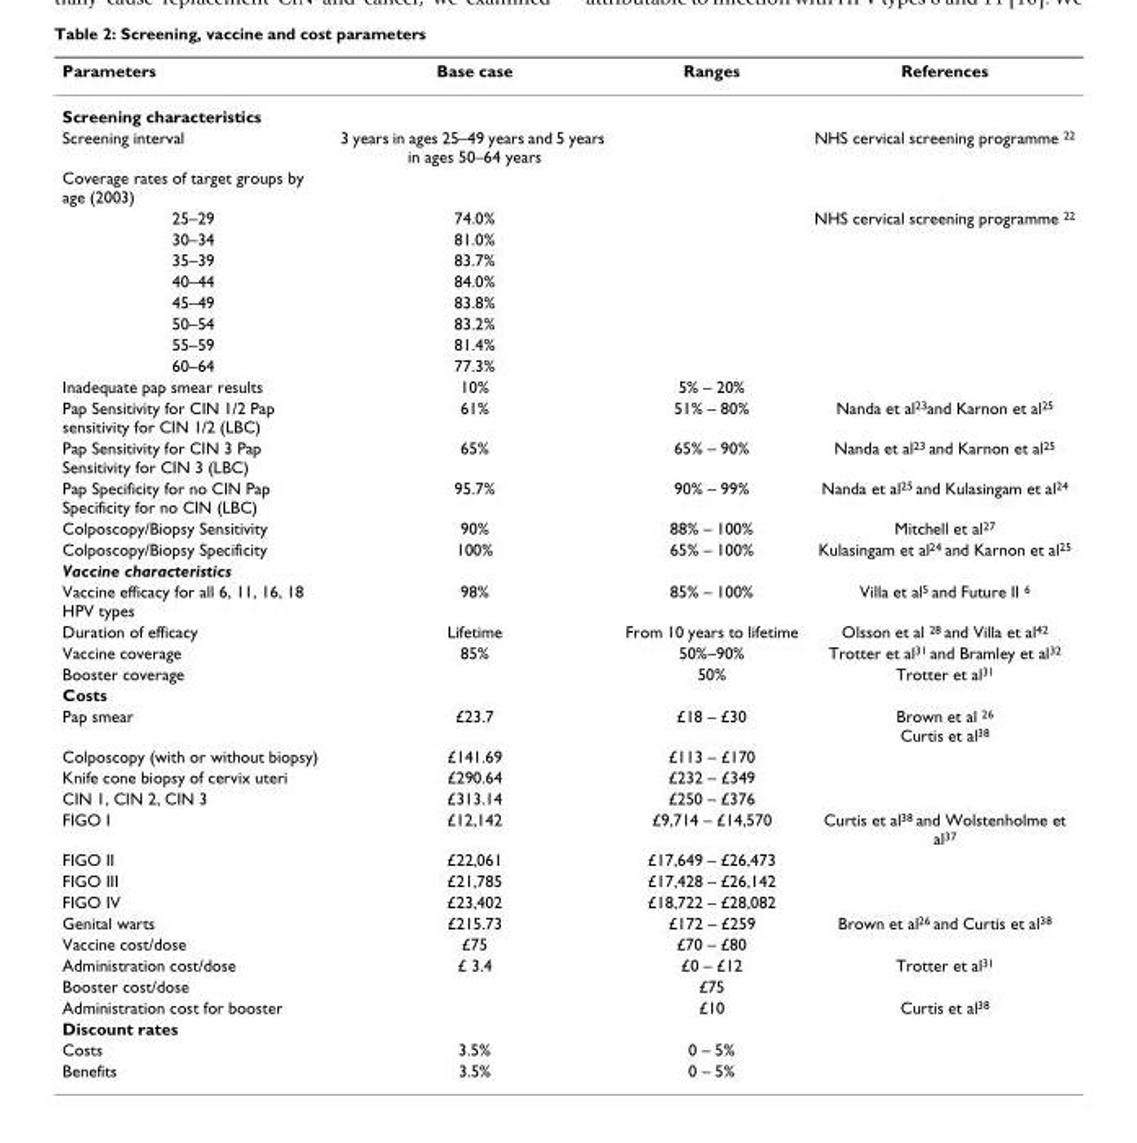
<table><thead><tr><td>Parameters</td><td>Base case</td><td>Ranges</td><td>References</td></tr></thead><tbody><tr><td colspan="4">Screening characteristics</td></tr><tr><td>Screening interval</td><td>3 years in ages 25–49 years and 5 years in ages 50–64 years</td><td></td><td>NHS cervical screening programme <sup>22</sup></td></tr><tr><td colspan="4">Coverage rates of target groups by age (2003)</td></tr><tr><td>25–29</td><td>74.0%</td><td></td><td>NHS cervical screening programme <sup>22</sup></td></tr><tr><td>30–34</td><td>81.0%</td><td></td><td></td></tr><tr><td>35–39</td><td>83.7%</td><td></td><td></td></tr><tr><td>40–44</td><td>84.0%</td><td></td><td></td></tr><tr><td>45–49</td><td>83.8%</td><td></td><td></td></tr><tr><td>50–54</td><td>83.2%</td><td></td><td></td></tr><tr><td>55–59</td><td>81.4%</td><td></td><td></td></tr><tr><td>60–64</td><td>77.3%</td><td></td><td></td></tr><tr><td>Inadequate pap smear results</td><td>10%</td><td>5% – 20%</td><td></td></tr><tr><td>Pap Sensitivity for CIN 1/2 Pap sensitivity for CIN 1/2 (LBC)</td><td>61%</td><td>51% – 80%</td><td>Nanda et al<sup>23</sup>and Karnon et al<sup>25</sup></td></tr><tr><td>Pap Sensitivity for CIN 3 Pap Sensitivity for CIN 3 (LBC)</td><td>65%</td><td>65% – 90%</td><td>Nanda et al<sup>23</sup> and Karnon et al<sup>25</sup></td></tr><tr><td>Pap Specificity for no CIN Pap Specificity for no CIN (LBC)</td><td>95.7%</td><td>90% – 99%</td><td>Nanda et al<sup>25</sup> and Kulasingam et al<sup>24</sup></td></tr><tr><td>Colposcopy/Biopsy Sensitivity</td><td>90%</td><td>88% – 100%</td><td>Mitchell et al<sup>27</sup></td></tr><tr><td>Colposcopy/Biopsy Specificity</td><td>100%</td><td>65% – 100%</td><td>Kulasingam et al<sup>24</sup> and Karnon et al<sup>25</sup></td></tr><tr><td colspan="4">Vaccine characteristics</td></tr><tr><td>Vaccine efficacy for all 6, 11, 16, 18 HPV types</td><td>98%</td><td>85% – 100%</td><td>Villa et al<sup>5</sup> and Future II <sup>6</sup></td></tr><tr><td>Duration of efficacy</td><td>Lifetime</td><td>From 10 years to lifetime</td><td>Olsson et al <sup>28</sup> and Villa et al<sup>42</sup></td></tr><tr><td>Vaccine coverage</td><td>85%</td><td>50%–90%</td><td>Trotter et al<sup>31</sup> and Bramley et al<sup>32</sup></td></tr><tr><td>Booster coverage</td><td></td><td>50%</td><td>Trotter et al<sup>31</sup></td></tr><tr><td colspan="4">Costs</td></tr><tr><td>Pap smear</td><td>£23.7</td><td>£18 – £30</td><td>Brown et al <sup>26</sup> Curtis et al<sup>38</sup></td></tr><tr><td>Colposcopy (with or without biopsy)</td><td>£141.69</td><td>£113 – £170</td><td></td></tr><tr><td>Knife cone biopsy of cervix uteri</td><td>£290.64</td><td>£232 – £349</td><td></td></tr><tr><td>CIN 1, CIN 2, CIN 3</td><td>£313.14</td><td>£250 – £376</td><td></td></tr><tr><td>FIGO I</td><td>£12,142</td><td>£9,714 – £14,570</td><td>Curtis et al<sup>38</sup> and Wolstenholme et al<sup>37</sup></td></tr><tr><td>FIGO II</td><td>£22,061</td><td>£17,649 – £26,473</td><td></td></tr><tr><td>FIGO III</td><td>£21,785</td><td>£17,428 – £26,142</td><td></td></tr><tr><td>FIGO IV</td><td>£23,402</td><td>£18,722 – £28,082</td><td></td></tr><tr><td>Genital warts</td><td>£215.73</td><td>£172 – £259</td><td>Brown et al<sup>26</sup> and Curtis et al<sup>38</sup></td></tr><tr><td>Vaccine cost/dose</td><td>£75</td><td>£70 – £80</td><td></td></tr><tr><td>Administration cost/dose</td><td>£ 3.4</td><td>£0 – £12</td><td>Trotter et al<sup>31</sup></td></tr><tr><td>Booster cost/dose</td><td></td><td>£75</td><td></td></tr><tr><td>Administration cost for booster</td><td></td><td>£10</td><td>Curtis et al<sup>38</sup></td></tr><tr><td colspan="4">Discount rates</td></tr><tr><td>Costs</td><td>3.5%</td><td>0 – 5%</td><td></td></tr><tr><td>Benefits</td><td>3.5%</td><td>0 – 5%</td><td></td></tr></tbody></table>